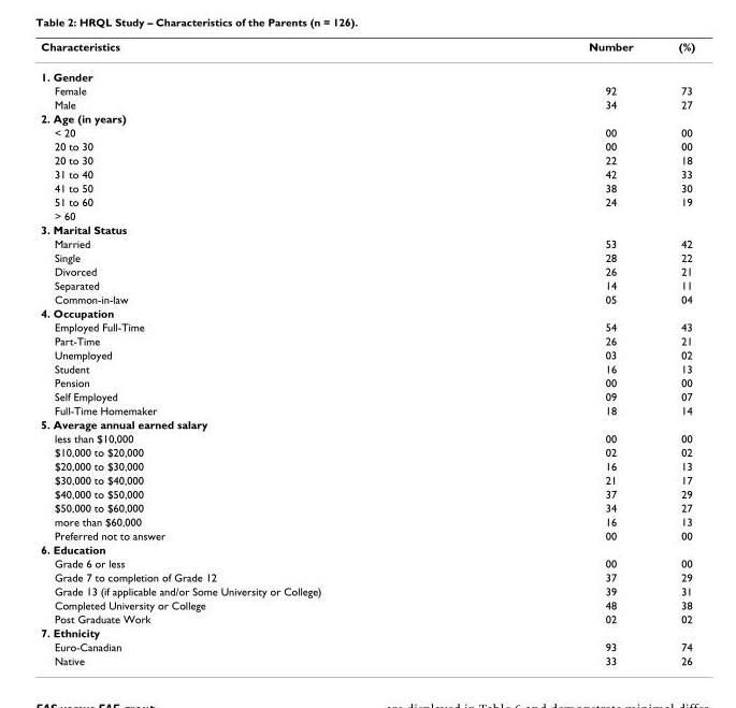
<table><thead><tr><td>Characteristics</td><td>Number</td><td>(%)</td></tr></thead><tbody><tr><td colspan="3">1. Gender</td></tr><tr><td>Female</td><td>92</td><td>73</td></tr><tr><td>Male</td><td>34</td><td>27</td></tr><tr><td colspan="3">2. Age (in years)</td></tr><tr><td>&lt; 20</td><td>00</td><td>00</td></tr><tr><td>20 to 30</td><td>00</td><td>00</td></tr><tr><td>20 to 30</td><td>22</td><td>18</td></tr><tr><td>31 to 40</td><td>42</td><td>33</td></tr><tr><td>41 to 50</td><td>38</td><td>30</td></tr><tr><td>51 to 60</td><td>24</td><td>19</td></tr><tr><td colspan="3">&gt; 60</td></tr><tr><td colspan="3">3. Marital Status</td></tr><tr><td>Married</td><td>53</td><td>42</td></tr><tr><td>Single</td><td>28</td><td>22</td></tr><tr><td>Divorced</td><td>26</td><td>21</td></tr><tr><td>Separated</td><td>14</td><td>11</td></tr><tr><td>Common-in-law</td><td>05</td><td>04</td></tr><tr><td colspan="3">4. Occupation</td></tr><tr><td>Employed Full-Time</td><td>54</td><td>43</td></tr><tr><td>Part-Time</td><td>26</td><td>21</td></tr><tr><td>Unemployed</td><td>03</td><td>02</td></tr><tr><td>Student</td><td>16</td><td>13</td></tr><tr><td>Pension</td><td>00</td><td>00</td></tr><tr><td>Self Employed</td><td>09</td><td>07</td></tr><tr><td>Full-Time Homemaker</td><td>18</td><td>14</td></tr><tr><td colspan="3">5. Average annual earned salary</td></tr><tr><td>less than $10,000</td><td>00</td><td>00</td></tr><tr><td>$10,000 to $20,000</td><td>02</td><td>02</td></tr><tr><td>$20,000 to $30,000</td><td>16</td><td>13</td></tr><tr><td>$30,000 to $40,000</td><td>21</td><td>17</td></tr><tr><td>$40,000 to $50,000</td><td>37</td><td>29</td></tr><tr><td>$50,000 to $60,000</td><td>34</td><td>27</td></tr><tr><td>more than $60,000</td><td>16</td><td>13</td></tr><tr><td>Preferred not to answer</td><td>00</td><td>00</td></tr><tr><td colspan="3">6. Education</td></tr><tr><td>Grade 6 or less</td><td>00</td><td>00</td></tr><tr><td>Grade 7 to completion of Grade 12</td><td>37</td><td>29</td></tr><tr><td>Grade 13 (if applicable and/or Some University or College)</td><td>39</td><td>31</td></tr><tr><td>Completed University or College</td><td>48</td><td>38</td></tr><tr><td>Post Graduate Work</td><td>02</td><td>02</td></tr><tr><td colspan="3">7. Ethnicity</td></tr><tr><td>Euro-Canadian</td><td>93</td><td>74</td></tr><tr><td>Native</td><td>33</td><td>26</td></tr></tbody></table>